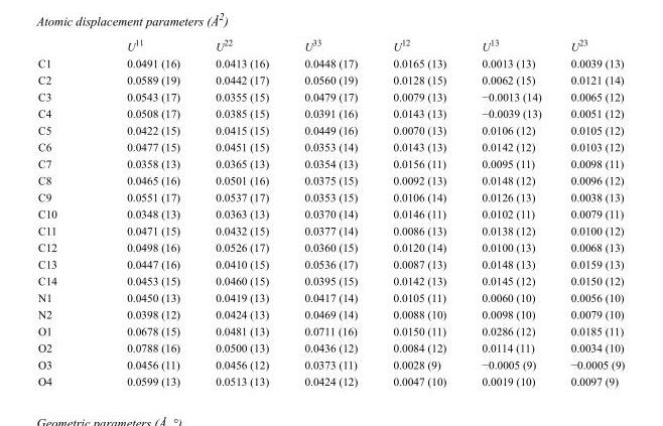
<table><thead><tr><td></td><td>U<sup>11</sup></td><td>U<sup>22</sup></td><td>U<sup>33</sup></td><td>U<sup>12</sup></td><td>U<sup>13</sup></td><td>U<sup>23</sup></td></tr></thead><tbody><tr><td>C1</td><td>0.0491 (16)</td><td>0.0413 (16)</td><td>0.0448 (17)</td><td>0.0165 (13)</td><td>0.0013 (13)</td><td>0.0039 (13)</td></tr><tr><td>C2</td><td>0.0589 (19)</td><td>0.0442 (17)</td><td>0.0560 (19)</td><td>0.0128 (15)</td><td>0.0062 (15)</td><td>0.0121 (14)</td></tr><tr><td>C3</td><td>0.0543 (17)</td><td>0.0355 (15)</td><td>0.0479 (17)</td><td>0.0079 (13)</td><td>−0.0013 (14)</td><td>0.0065 (12)</td></tr><tr><td>C4</td><td>0.0508 (17)</td><td>0.0385 (15)</td><td>0.0391 (16)</td><td>0.0143 (13)</td><td>−0.0039 (13)</td><td>0.0051 (12)</td></tr><tr><td>C5</td><td>0.0422 (15)</td><td>0.0415 (15)</td><td>0.0449 (16)</td><td>0.0070 (13)</td><td>0.0106 (12)</td><td>0.0105 (12)</td></tr><tr><td>C6</td><td>0.0477 (15)</td><td>0.0451 (15)</td><td>0.0353 (14)</td><td>0.0143 (13)</td><td>0.0142 (12)</td><td>0.0103 (12)</td></tr><tr><td>C7</td><td>0.0358 (13)</td><td>0.0365 (13)</td><td>0.0354 (13)</td><td>0.0156 (11)</td><td>0.0095 (11)</td><td>0.0098 (11)</td></tr><tr><td>C8</td><td>0.0465 (16)</td><td>0.0501 (16)</td><td>0.0375 (15)</td><td>0.0092 (13)</td><td>0.0148 (12)</td><td>0.0096 (12)</td></tr><tr><td>C9</td><td>0.0551 (17)</td><td>0.0537 (17)</td><td>0.0353 (15)</td><td>0.0106 (14)</td><td>0.0126 (13)</td><td>0.0038 (13)</td></tr><tr><td>C10</td><td>0.0348 (13)</td><td>0.0363 (13)</td><td>0.0370 (14)</td><td>0.0146 (11)</td><td>0.0102 (11)</td><td>0.0079 (11)</td></tr><tr><td>C11</td><td>0.0471 (15)</td><td>0.0432 (15)</td><td>0.0377 (14)</td><td>0.0086 (13)</td><td>0.0138 (12)</td><td>0.0100 (12)</td></tr><tr><td>C12</td><td>0.0498 (16)</td><td>0.0526 (17)</td><td>0.0360 (15)</td><td>0.0120 (14)</td><td>0.0100 (13)</td><td>0.0068 (13)</td></tr><tr><td>C13</td><td>0.0447 (16)</td><td>0.0410 (15)</td><td>0.0536 (17)</td><td>0.0087 (13)</td><td>0.0148 (13)</td><td>0.0159 (13)</td></tr><tr><td>C14</td><td>0.0453 (15)</td><td>0.0460 (15)</td><td>0.0395 (15)</td><td>0.0142 (13)</td><td>0.0145 (12)</td><td>0.0150 (12)</td></tr><tr><td>N1</td><td>0.0450 (13)</td><td>0.0419 (13)</td><td>0.0417 (14)</td><td>0.0105 (11)</td><td>0.0060 (10)</td><td>0.0056 (10)</td></tr><tr><td>N2</td><td>0.0398 (12)</td><td>0.0424 (13)</td><td>0.0469 (14)</td><td>0.0088 (10)</td><td>0.0098 (10)</td><td>0.0079 (10)</td></tr><tr><td>O1</td><td>0.0678 (15)</td><td>0.0481 (13)</td><td>0.0711 (16)</td><td>0.0150 (11)</td><td>0.0286 (12)</td><td>0.0185 (11)</td></tr><tr><td>O2</td><td>0.0788 (16)</td><td>0.0500 (13)</td><td>0.0436 (12)</td><td>0.0084 (12)</td><td>0.0114 (11)</td><td>0.0034 (10)</td></tr><tr><td>O3</td><td>0.0456 (11)</td><td>0.0456 (12)</td><td>0.0373 (11)</td><td>0.0028 (9)</td><td>−0.0005 (9)</td><td>−0.0005 (9)</td></tr><tr><td>O4</td><td>0.0599 (13)</td><td>0.0513 (13)</td><td>0.0424 (12)</td><td>0.0047 (10)</td><td>0.0019 (10)</td><td>0.0097 (9)</td></tr></tbody></table>